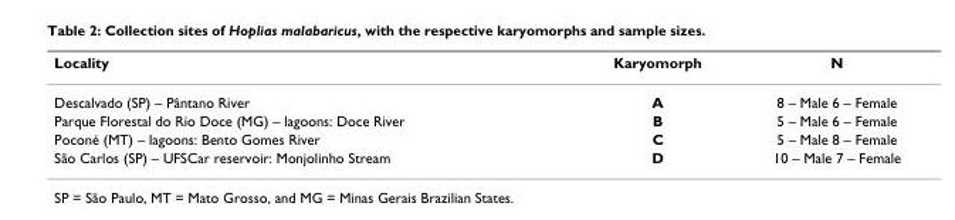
<table><thead><tr><td>Locality</td><td>Karyomorph</td><td>N</td></tr></thead><tbody><tr><td>Descalvado (SP) – Pântano River</td><td>A</td><td>8 – Male 6 – Female</td></tr><tr><td>Parque Florestal do Rio Doce (MG) – lagoons: Doce River</td><td>B</td><td>5 – Male 6 – Female</td></tr><tr><td>Poconé (MT) – lagoons: Bento Gomes River</td><td>C</td><td>5 – Male 8 – Female</td></tr><tr><td>São Carlos (SP) – UFSCar reservoir: Monjolinho Stream</td><td>D</td><td>10 – Male 7 – Female</td></tr></tbody></table>